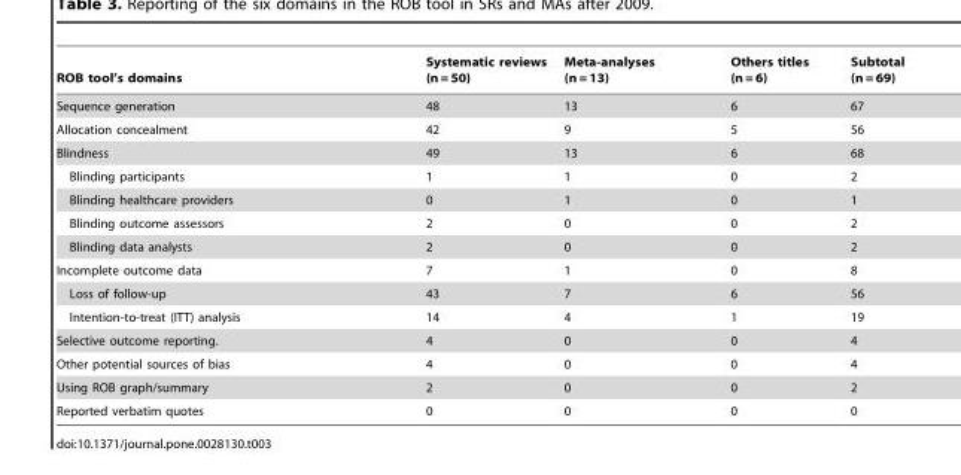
<table><thead><tr><td>ROB tool’s domains</td><td>Systematic reviews (n = 50)</td><td>Meta-analyses (n = 13)</td><td>Others titles (n = 6)</td><td>Subtotal (n = 69)</td></tr></thead><tbody><tr><td>Sequence generation</td><td>48</td><td>13</td><td>6</td><td>67</td></tr><tr><td>Allocation concealment</td><td>42</td><td>9</td><td>5</td><td>56</td></tr><tr><td>Blindness</td><td>49</td><td>13</td><td>6</td><td>68</td></tr><tr><td>Blinding participants</td><td>1</td><td>1</td><td>0</td><td>2</td></tr><tr><td>Blinding healthcare providers</td><td>0</td><td>1</td><td>0</td><td>1</td></tr><tr><td>Blinding outcome assessors</td><td>2</td><td>0</td><td>0</td><td>2</td></tr><tr><td>Blinding data analysts</td><td>2</td><td>0</td><td>0</td><td>2</td></tr><tr><td>Incomplete outcome data</td><td>7</td><td>1</td><td>0</td><td>8</td></tr><tr><td>Loss of follow-up</td><td>43</td><td>7</td><td>6</td><td>56</td></tr><tr><td>Intention-to-treat (ITT) analysis</td><td>14</td><td>4</td><td>1</td><td>19</td></tr><tr><td>Selective outcome reporting.</td><td>4</td><td>0</td><td>0</td><td>4</td></tr><tr><td>Other potential sources of bias</td><td>4</td><td>0</td><td>0</td><td>4</td></tr><tr><td>Using ROB graph/summary</td><td>2</td><td>0</td><td>0</td><td>2</td></tr><tr><td>Reported verbatim quotes</td><td>0</td><td>0</td><td>0</td><td>0</td></tr></tbody></table>